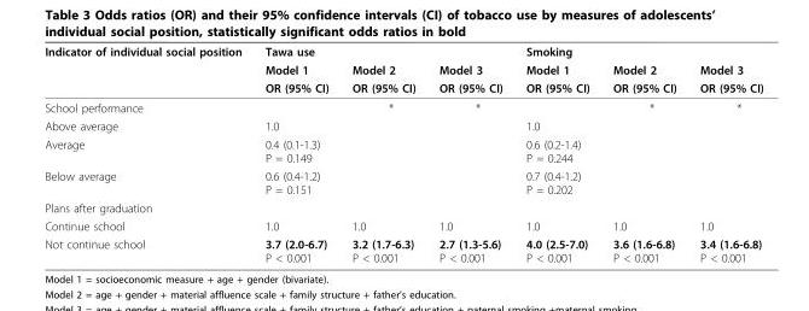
<table><thead><tr><td rowspan="3">Indicator of individual social position</td><td colspan="3">Tawa use</td><td colspan="3">Smoking</td></tr><tr><td rowspan="2">Model 1 OR (95% CI)</td><td rowspan="2">Model 2 OR (95% CI)</td><td rowspan="2">Model 3 OR (95% CI)</td><td rowspan="2">Model 1 OR (95% CI)</td><td rowspan="2">Model 2 OR (95% CI)</td><td rowspan="2">Model 3 OR (95% CI)</td></tr><tr></tr></thead><tbody><tr><td>School performance</td><td></td><td>*</td><td>*</td><td></td><td>*</td><td>*</td></tr><tr><td>Above average</td><td>1.0</td><td></td><td></td><td>1.0</td><td></td><td></td></tr><tr><td>Average</td><td>0.4 (0.1-1.3) P = 0.149</td><td></td><td></td><td>0.6 (0.2-1.4) P = 0.244</td><td></td><td></td></tr><tr><td>Below average</td><td>0.6 (0.4-1.2) P = 0.151</td><td></td><td></td><td>0.7 (0.4-1.2) P = 0.202</td><td></td><td></td></tr><tr><td colspan="7">Plans after graduation</td></tr><tr><td>Continue school</td><td>1.0</td><td>1.0</td><td>1.0</td><td>1.0</td><td>1.0</td><td>1.0</td></tr><tr><td>Not continue school</td><td>3.7 (2.0-6.7) P &lt; 0.001</td><td>3.2 (1.7-6.3) P &lt; 0.001</td><td>2.7 (1.3-5.6) P &lt; 0.001</td><td>4.0 (2.5-7.0) P &lt; 0.001</td><td>3.6 (1.6-6.8) P &lt; 0.001</td><td>3.4 (1.6-6.8) P &lt; 0.001</td></tr></tbody></table>